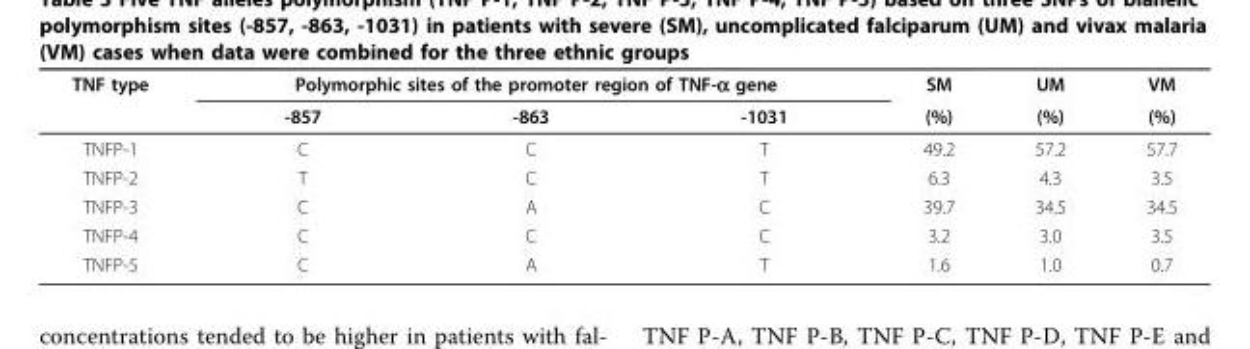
<table><thead><tr><td rowspan="2">TNF type</td><td colspan="3">Polymorphic sites of the promoter region of TNF-α gene</td><td rowspan="2">SM (%)</td><td rowspan="2">UM (%)</td><td rowspan="2">VM (%)</td></tr><tr><td>-857</td><td>-863</td><td>-1031</td></tr></thead><tbody><tr><td>TNFP-1</td><td>C</td><td>C</td><td>T</td><td>49.2</td><td>57.2</td><td>57.7</td></tr><tr><td>TNFP-2</td><td>T</td><td>C</td><td>T</td><td>6.3</td><td>4.3</td><td>3.5</td></tr><tr><td>TNFP-3</td><td>C</td><td>A</td><td>C</td><td>39.7</td><td>34.5</td><td>34.5</td></tr><tr><td>TNFP-4</td><td>C</td><td>C</td><td>C</td><td>3.2</td><td>3.0</td><td>3.5</td></tr><tr><td>TNFP-5</td><td>C</td><td>A</td><td>T</td><td>1.6</td><td>1.0</td><td>0.7</td></tr></tbody></table>